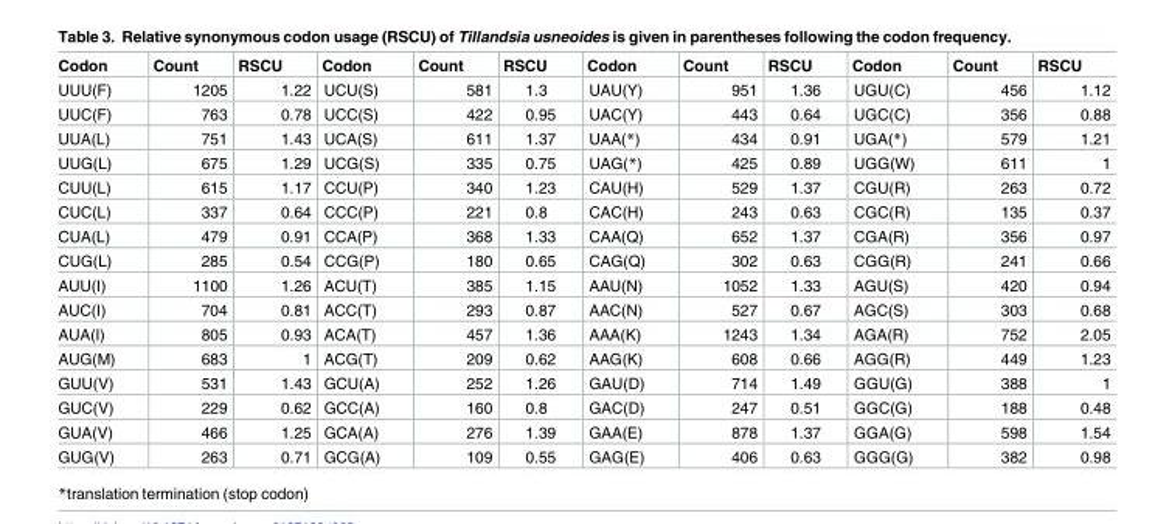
<table><thead><tr><td>Codon</td><td>Count</td><td>RSCU</td><td>Codon</td><td>Count</td><td>RSCU</td><td>Codon</td><td>Count</td><td>RSCU</td><td>Codon</td><td>Count</td><td>RSCU</td></tr></thead><tbody><tr><td>UUU(F)</td><td>1205</td><td>1.22</td><td>UCU(S)</td><td>581</td><td>1.3</td><td>UAU(Y)</td><td>951</td><td>1.36</td><td>UGU(C)</td><td>456</td><td>1.12</td></tr><tr><td>UUC(F)</td><td>763</td><td>0.78</td><td>UCC(S)</td><td>422</td><td>0.95</td><td>UAC(Y)</td><td>443</td><td>0.64</td><td>UGC(C)</td><td>356</td><td>0.88</td></tr><tr><td>UUA(L)</td><td>751</td><td>1.43</td><td>UCA(S)</td><td>611</td><td>1.37</td><td>UAA(*)</td><td>434</td><td>0.91</td><td>UGA(*)</td><td>579</td><td>1.21</td></tr><tr><td>UUG(L)</td><td>675</td><td>1.29</td><td>UCG(S)</td><td>335</td><td>0.75</td><td>UAG(*)</td><td>425</td><td>0.89</td><td>UGG(W)</td><td>611</td><td>1</td></tr><tr><td>CUU(L)</td><td>615</td><td>1.17</td><td>CCU(P)</td><td>340</td><td>1.23</td><td>CAU(H)</td><td>529</td><td>1.37</td><td>CGU(R)</td><td>263</td><td>0.72</td></tr><tr><td>CUC(L)</td><td>337</td><td>0.64</td><td>CCC(P)</td><td>221</td><td>0.8</td><td>CAC(H)</td><td>243</td><td>0.63</td><td>CGC(R)</td><td>135</td><td>0.37</td></tr><tr><td>CUA(L)</td><td>479</td><td>0.91</td><td>CCA(P)</td><td>368</td><td>1.33</td><td>CAA(Q)</td><td>652</td><td>1.37</td><td>CGA(R)</td><td>356</td><td>0.97</td></tr><tr><td>CUG(L)</td><td>285</td><td>0.54</td><td>CCG(P)</td><td>180</td><td>0.65</td><td>CAG(Q)</td><td>302</td><td>0.63</td><td>CGG(R)</td><td>241</td><td>0.66</td></tr><tr><td>AUU(I)</td><td>1100</td><td>1.26</td><td>ACU(T)</td><td>385</td><td>1.15</td><td>AAU(N)</td><td>1052</td><td>1.33</td><td>AGU(S)</td><td>420</td><td>0.94</td></tr><tr><td>AUC(I)</td><td>704</td><td>0.81</td><td>ACC(T)</td><td>293</td><td>0.87</td><td>AAC(N)</td><td>527</td><td>0.67</td><td>AGC(S)</td><td>303</td><td>0.68</td></tr><tr><td>AUA(I)</td><td>805</td><td>0.93</td><td>ACA(T)</td><td>457</td><td>1.36</td><td>AAA(K)</td><td>1243</td><td>1.34</td><td>AGA(R)</td><td>752</td><td>2.05</td></tr><tr><td>AUG(M)</td><td>683</td><td>1</td><td>ACG(T)</td><td>209</td><td>0.62</td><td>AAG(K)</td><td>608</td><td>0.66</td><td>AGG(R)</td><td>449</td><td>1.23</td></tr><tr><td>GUU(V)</td><td>531</td><td>1.43</td><td>GCU(A)</td><td>252</td><td>1.26</td><td>GAU(D)</td><td>714</td><td>1.49</td><td>GGU(G)</td><td>388</td><td>1</td></tr><tr><td>GUC(V)</td><td>229</td><td>0.62</td><td>GCC(A)</td><td>160</td><td>0.8</td><td>GAC(D)</td><td>247</td><td>0.51</td><td>GGC(G)</td><td>188</td><td>0.48</td></tr><tr><td>GUA(V)</td><td>466</td><td>1.25</td><td>GCA(A)</td><td>276</td><td>1.39</td><td>GAA(E)</td><td>878</td><td>1.37</td><td>GGA(G)</td><td>598</td><td>1.54</td></tr><tr><td>GUG(V)</td><td>263</td><td>0.71</td><td>GCG(A)</td><td>109</td><td>0.55</td><td>GAG(E)</td><td>406</td><td>0.63</td><td>GGG(G)</td><td>382</td><td>0.98</td></tr></tbody></table>